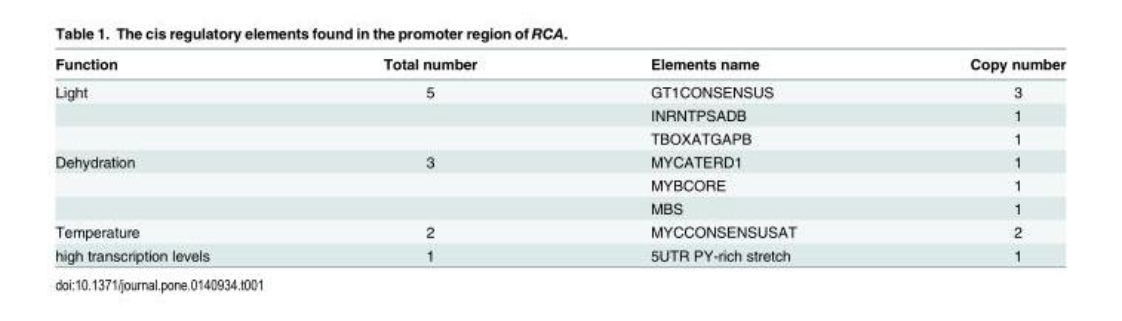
<table><thead><tr><td>Function</td><td>Total number</td><td>Elements name</td><td>Copy number</td></tr></thead><tbody><tr><td rowspan="3">Light</td><td>5</td><td>GT1CONSENSUS</td><td>3</td></tr><tr><td></td><td>INRNTPSADB</td><td>1</td></tr><tr><td></td><td>TBOXATGAPB</td><td>1</td></tr><tr><td rowspan="3">Dehydration</td><td>3</td><td>MYCATERD1</td><td>1</td></tr><tr><td></td><td>MYBCORE</td><td>1</td></tr><tr><td></td><td>MBS</td><td>1</td></tr><tr><td>Temperature</td><td>2</td><td>MYCCONSENSUSAT</td><td>2</td></tr><tr><td>high transcription levels</td><td>1</td><td>5UTR PY-rich stretch</td><td>1</td></tr></tbody></table>